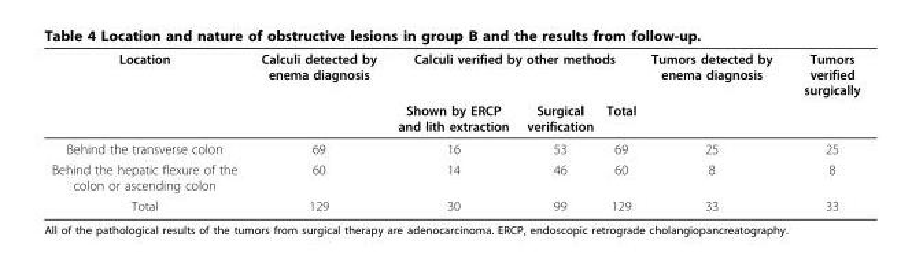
<table><thead><tr><td rowspan="2">Location</td><td rowspan="2">Calculi detected by enema diagnosis</td><td colspan="3">Calculi verified by other methods</td><td rowspan="2">Tumors detected by enema diagnosis</td><td rowspan="2">Tumors verified surgically</td></tr><tr><td>Shown by ERCP and lith extraction</td><td>Surgical verification</td><td>Total</td></tr></thead><tbody><tr><td>Behind the transverse colon</td><td>69</td><td>16</td><td>53</td><td>69</td><td>25</td><td>25</td></tr><tr><td>Behind the hepatic flexure of the colon or ascending colon</td><td>60</td><td>14</td><td>46</td><td>60</td><td>8</td><td>8</td></tr><tr><td>Total</td><td>129</td><td>30</td><td>99</td><td>129</td><td>33</td><td>33</td></tr></tbody></table>